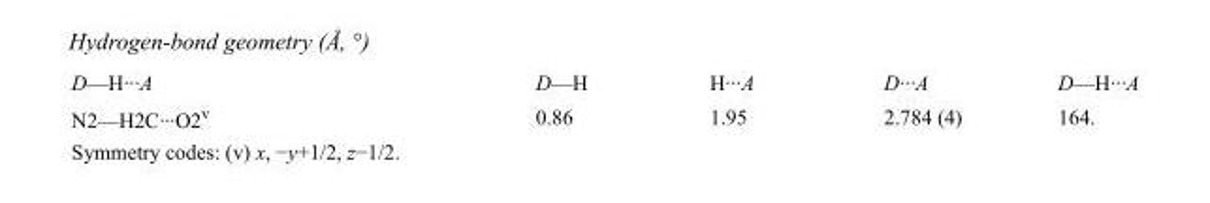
<table><tbody><tr><td>D—H···A</td><td>D—H</td><td>H···A</td><td>D···A</td><td>D—H···A</td></tr><tr><td>N2—H2C···O2<sup>v</sup></td><td>0.86</td><td>1.95</td><td>2.784 (4)</td><td>164.</td></tr></tbody></table>